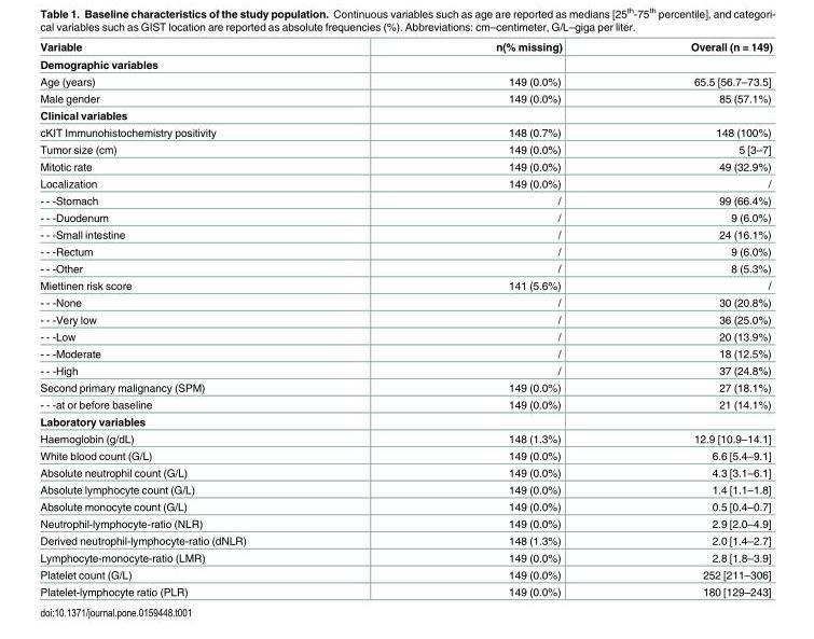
<table><thead><tr><td>Variable</td><td>n(% missing)</td><td>Overall (n = 149)</td></tr></thead><tbody><tr><td colspan="3">Demographic variables</td></tr><tr><td>Age (years)</td><td>149 (0.0%)</td><td>65.5 [56.7–73.5]</td></tr><tr><td>Male gender</td><td>149 (0.0%)</td><td>85 (57.1%)</td></tr><tr><td colspan="3">Clinical variables</td></tr><tr><td>cKIT Immunohistochemistry positivity</td><td>148 (0.7%)</td><td>148 (100%)</td></tr><tr><td>Tumor size (cm)</td><td>149 (0.0%)</td><td>5 [3–7]</td></tr><tr><td>Mitotic rate</td><td>149 (0.0%)</td><td>49 (32.9%)</td></tr><tr><td>Localization</td><td>149 (0.0%)</td><td>/</td></tr><tr><td>- - -Stomach</td><td>/</td><td>99 (66.4%)</td></tr><tr><td>- - -Duodenum</td><td>/</td><td>9 (6.0%)</td></tr><tr><td>- - -Small intestine</td><td>/</td><td>24 (16.1%)</td></tr><tr><td>- - -Rectum</td><td>/</td><td>9 (6.0%)</td></tr><tr><td>- - -Other</td><td>/</td><td>8 (5.3%)</td></tr><tr><td>Miettinen risk score</td><td>141 (5.6%)</td><td>/</td></tr><tr><td>- - -None</td><td>/</td><td>30 (20.8%)</td></tr><tr><td>- - -Very low</td><td>/</td><td>36 (25.0%)</td></tr><tr><td>- - -Low</td><td>/</td><td>20 (13.9%)</td></tr><tr><td>- - -Moderate</td><td>/</td><td>18 (12.5%)</td></tr><tr><td>- - -High</td><td>/</td><td>37 (24.8%)</td></tr><tr><td>Second primary malignancy (SPM)</td><td>149 (0.0%)</td><td>27 (18.1%)</td></tr><tr><td>- - -at or before baseline</td><td>149 (0.0%)</td><td>21 (14.1%)</td></tr><tr><td colspan="3">Laboratory variables</td></tr><tr><td>Haemoglobin (g/dL)</td><td>148 (1.3%)</td><td>12.9 [10.9–14.1]</td></tr><tr><td>White blood count (G/L)</td><td>149 (0.0%)</td><td>6.6 [5.4–9.1]</td></tr><tr><td>Absolute neutrophil count (G/L)</td><td>149 (0.0%)</td><td>4.3 [3.1–6.1]</td></tr><tr><td>Absolute lymphocyte count (G/L)</td><td>149 (0.0%)</td><td>1.4 [1.1–1.8]</td></tr><tr><td>Absolute monocyte count (G/L)</td><td>149 (0.0%)</td><td>0.5 [0.4–0.7]</td></tr><tr><td>Neutrophil-lymphocyte-ratio (NLR)</td><td>149 (0.0%)</td><td>2.9 [2.0–4.9]</td></tr><tr><td>Derived neutrophil-lymphocyte-ratio (dNLR)</td><td>148 (1.3%)</td><td>2.0 [1.4–2.7]</td></tr><tr><td>Lymphocyte-monocyte-ratio (LMR)</td><td>149 (0.0%)</td><td>2.8 [1.8–3.9]</td></tr><tr><td>Platelet count (G/L)</td><td>149 (0.0%)</td><td>252 [211–306]</td></tr><tr><td>Platelet-lymphocyte ratio (PLR)</td><td>149 (0.0%)</td><td>180 [129–243]</td></tr></tbody></table>